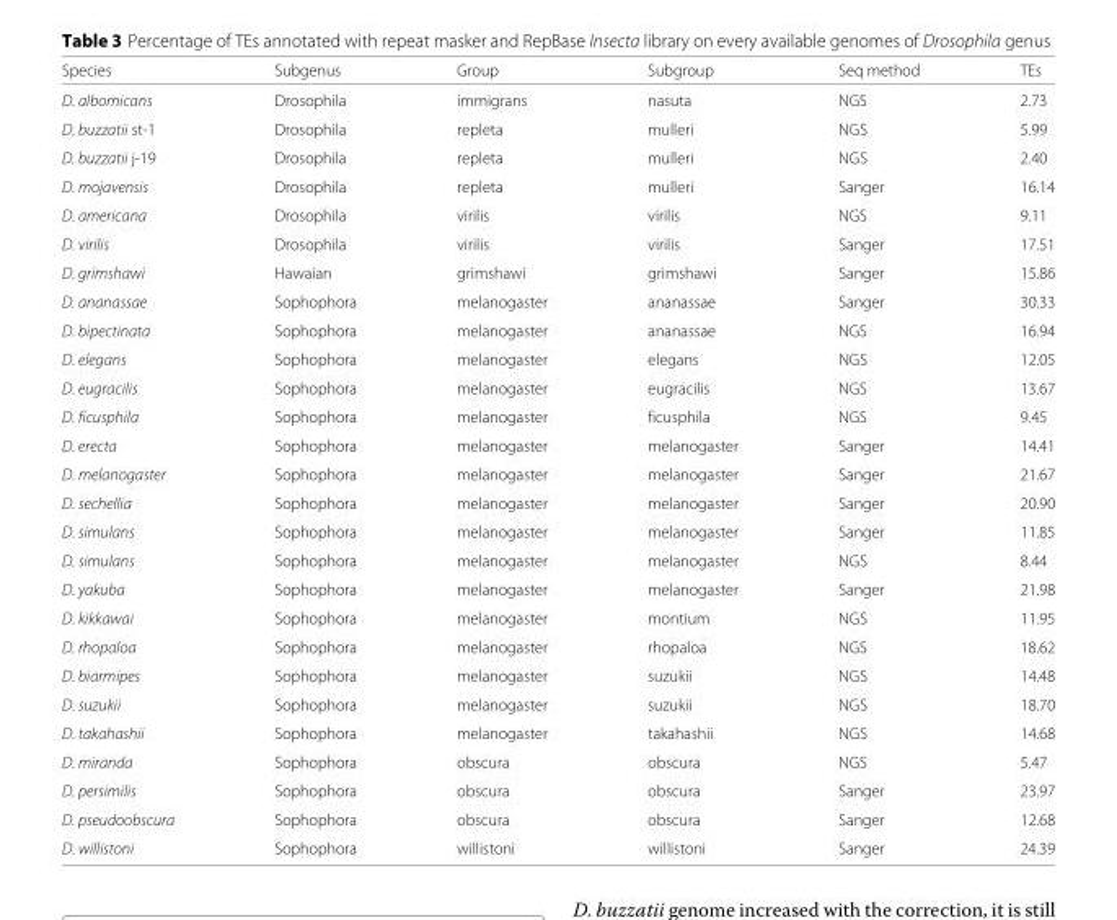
<table><thead><tr><td>Species</td><td>Subgenus</td><td>Group</td><td>Subgroup</td><td>Seq method</td><td>TEs</td></tr></thead><tbody><tr><td>D. albomicans</td><td>Drosophila</td><td>immigrans</td><td>nasuta</td><td>NGS</td><td>2.73</td></tr><tr><td>D. buzzatii st-1</td><td>Drosophila</td><td>repleta</td><td>mulleri</td><td>NGS</td><td>5.99</td></tr><tr><td>D. buzzatii j-19</td><td>Drosophila</td><td>repleta</td><td>mulleri</td><td>NGS</td><td>2.40</td></tr><tr><td>D. mojavensis</td><td>Drosophila</td><td>repleta</td><td>mulleri</td><td>Sanger</td><td>16.14</td></tr><tr><td>D. americana</td><td>Drosophila</td><td>virilis</td><td>virilis</td><td>NGS</td><td>9.11</td></tr><tr><td>D. virilis</td><td>Drosophila</td><td>virilis</td><td>virilis</td><td>Sanger</td><td>17.51</td></tr><tr><td>D. grimshawi</td><td>Hawaian</td><td>grimshawi</td><td>grimshawi</td><td>Sanger</td><td>15.86</td></tr><tr><td>D. ananassae</td><td>Sophophora</td><td>melanogaster</td><td>ananassae</td><td>Sanger</td><td>30.33</td></tr><tr><td>D. bipectinata</td><td>Sophophora</td><td>melanogaster</td><td>ananassae</td><td>NGS</td><td>16.94</td></tr><tr><td>D. elegans</td><td>Sophophora</td><td>melanogaster</td><td>elegans</td><td>NGS</td><td>12.05</td></tr><tr><td>D. eugracilis</td><td>Sophophora</td><td>melanogaster</td><td>eugracilis</td><td>NGS</td><td>13.67</td></tr><tr><td>D. ficusphila</td><td>Sophophora</td><td>melanogaster</td><td>ficusphila</td><td>NGS</td><td>9.45</td></tr><tr><td>D. erecta</td><td>Sophophora</td><td>melanogaster</td><td>melanogaster</td><td>Sanger</td><td>14.41</td></tr><tr><td>D. melanogaster</td><td>Sophophora</td><td>melanogaster</td><td>melanogaster</td><td>Sanger</td><td>21.67</td></tr><tr><td>D. sechellia</td><td>Sophophora</td><td>melanogaster</td><td>melanogaster</td><td>Sanger</td><td>20.90</td></tr><tr><td>D. simulans</td><td>Sophophora</td><td>melanogaster</td><td>melanogaster</td><td>Sanger</td><td>11.85</td></tr><tr><td>D. simulans</td><td>Sophophora</td><td>melanogaster</td><td>melanogaster</td><td>NGS</td><td>8.44</td></tr><tr><td>D. yakuba</td><td>Sophophora</td><td>melanogaster</td><td>melanogaster</td><td>Sanger</td><td>21.98</td></tr><tr><td>D. kikkawai</td><td>Sophophora</td><td>melanogaster</td><td>montium</td><td>NGS</td><td>11.95</td></tr><tr><td>D. rhopaloa</td><td>Sophophora</td><td>melanogaster</td><td>rhopaloa</td><td>NGS</td><td>18.62</td></tr><tr><td>D. biarmipes</td><td>Sophophora</td><td>melanogaster</td><td>suzukii</td><td>NGS</td><td>14.48</td></tr><tr><td>D. suzukii</td><td>Sophophora</td><td>melanogaster</td><td>suzukii</td><td>NGS</td><td>18.70</td></tr><tr><td>D. takahashii</td><td>Sophophora</td><td>melanogaster</td><td>takahashii</td><td>NGS</td><td>14.68</td></tr><tr><td>D. miranda</td><td>Sophophora</td><td>obscura</td><td>obscura</td><td>NGS</td><td>5.47</td></tr><tr><td>D. persimilis</td><td>Sophophora</td><td>obscura</td><td>obscura</td><td>Sanger</td><td>23.97</td></tr><tr><td>D. pseudoobscura</td><td>Sophophora</td><td>obscura</td><td>obscura</td><td>Sanger</td><td>12.68</td></tr><tr><td>D. willistoni</td><td>Sophophora</td><td>willistoni</td><td>willistoni</td><td>Sanger</td><td>24.39</td></tr></tbody></table>